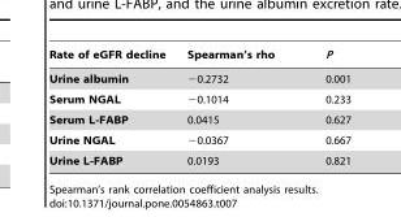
<table><thead><tr><td>Rate of eGFR decline</td><td>Spearman’s rho</td><td>P</td></tr></thead><tbody><tr><td>Urine albumin</td><td>−0.2732</td><td>0.001</td></tr><tr><td>Serum NGAL</td><td>−0.1014</td><td>0.233</td></tr><tr><td>Serum L-FABP</td><td>0.0415</td><td>0.627</td></tr><tr><td>Urine NGAL</td><td>−0.0367</td><td>0.667</td></tr><tr><td>Urine L-FABP</td><td>0.0193</td><td>0.821</td></tr></tbody></table>